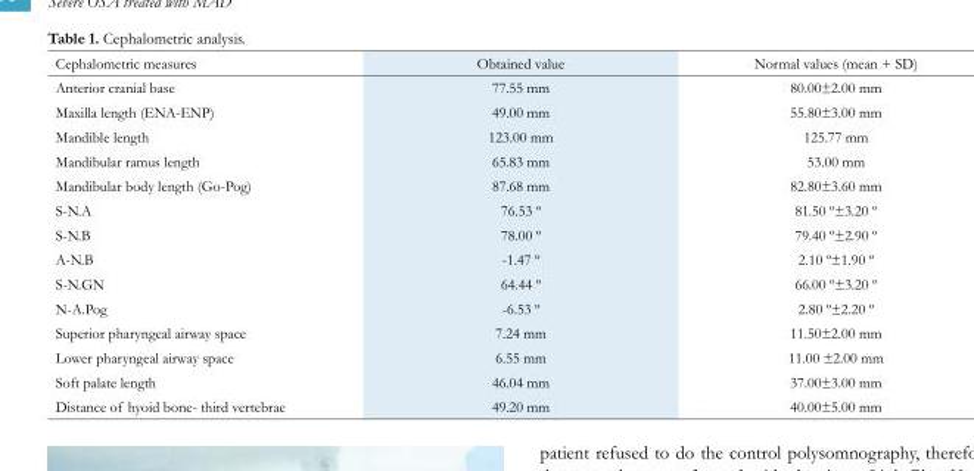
<table><thead><tr><td>Cephalometric measures</td><td>Obtained value</td><td>Normal values (mean + SD)</td></tr></thead><tbody><tr><td>Anterior cranial base</td><td>77.55 mm</td><td>80.00±2.00 mm</td></tr><tr><td>Maxilla length (ENA-ENP)</td><td>49.00 mm</td><td>55.80±3.00 mm</td></tr><tr><td>Mandible length</td><td>123.00 mm</td><td>125.77 mm</td></tr><tr><td>Mandibular ramus length</td><td>65.83 mm</td><td>53.00 mm</td></tr><tr><td>Mandibular body length (Go-Pog)</td><td>87.68 mm</td><td>82.80±3.60 mm</td></tr><tr><td>S-N.A</td><td>76.53 º</td><td>81.50 º±3.20 º</td></tr><tr><td>S-N.B</td><td>78.00 º</td><td>79.40 º±2.90 º</td></tr><tr><td>A-N.B</td><td>-1.47 º</td><td>2.10 º±1.90 º</td></tr><tr><td>S-N.GN</td><td>64.44 º</td><td>66.00 º±3.20 º</td></tr><tr><td>N-A.Pog</td><td>-6.53 º</td><td>2.80 º±2.20 º</td></tr><tr><td>Superior pharyngeal airway space</td><td>7.24 mm</td><td>11.50±2.00 mm</td></tr><tr><td>Lower pharyngeal airway space</td><td>6.55 mm</td><td>11.00 ±2.00 mm</td></tr><tr><td>Soft palate length</td><td>46.04 mm</td><td>37.00±3.00 mm</td></tr><tr><td>Distance of hyoid bone- third vertebrae</td><td>49.20 mm</td><td>40.00±5.00 mm</td></tr></tbody></table>